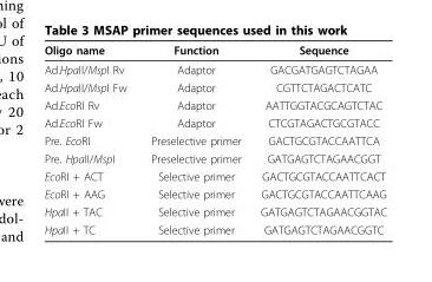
<table><thead><tr><td>Oligo name</td><td>Function</td><td>Sequence</td></tr></thead><tbody><tr><td>Ad.HpaII/MspI Rv</td><td>Adaptor</td><td>GACGATGAGTCTAGAA</td></tr><tr><td>Ad.HpaII/MspI Fw</td><td>Adaptor</td><td>CGTTCTAGACTCATC</td></tr><tr><td>Ad.EcoRI Rv</td><td>Adaptor</td><td>AATTGGTACGCAGTCTAC</td></tr><tr><td>Ad.EcoRI Fw</td><td>Adaptor</td><td>CTCGTAGACTGCGTACC</td></tr><tr><td>Pre. EcoRI</td><td>Preselective primer</td><td>GACTGCGTACCAATTCA</td></tr><tr><td>Pre. HpaII/MspI</td><td>Preselective primer</td><td>GATGAGTCTAGAACGGT</td></tr><tr><td>EcoRI + ACT</td><td>Selective primer</td><td>GACTGCGTACCAATTCACT</td></tr><tr><td>EcoRI + AAG</td><td>Selective primer</td><td>GACTGCGTACCAATTCAAG</td></tr><tr><td>HpaII + TAC</td><td>Selective primer</td><td>GATGAGTCTAGAACGGTAC</td></tr><tr><td>HpaII + TC</td><td>Selective primer</td><td>GATGAGTCTAGAACGGTC</td></tr></tbody></table>